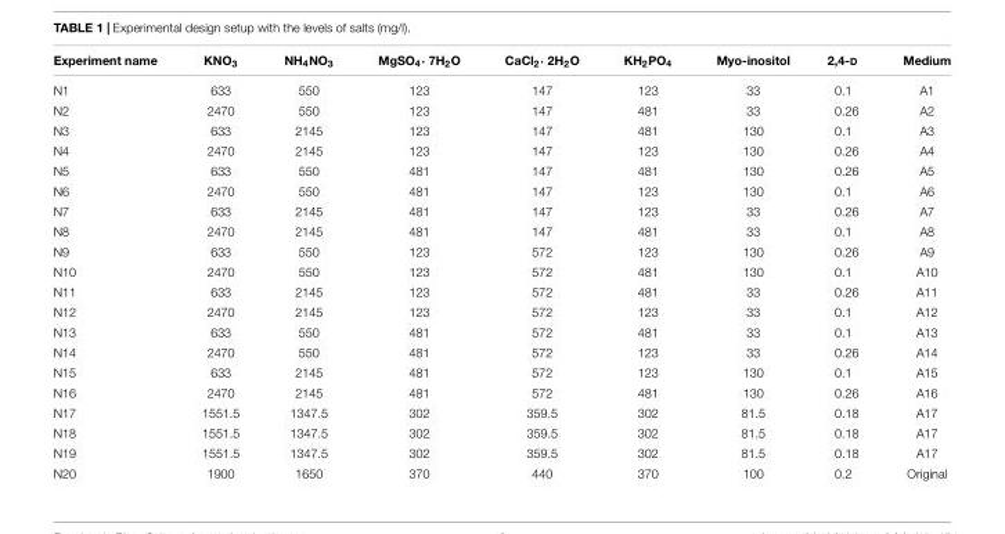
<table><thead><tr><td>Experiment name</td><td>KNO<sub>3</sub></td><td>NH<sub>4</sub>NO<sub>3</sub></td><td>MgSO4· 7H2O</td><td>CaCl2· 2H2O</td><td>KH<sub>2</sub>PO<sub>4</sub></td><td>Myo-inositol</td><td>2,4-D</td><td>Medium</td></tr></thead><tbody><tr><td>N1</td><td>633</td><td>550</td><td>123</td><td>147</td><td>123</td><td>33</td><td>0.1</td><td>A1</td></tr><tr><td>N2</td><td>2470</td><td>550</td><td>123</td><td>147</td><td>481</td><td>33</td><td>0.26</td><td>A2</td></tr><tr><td>N3</td><td>633</td><td>2145</td><td>123</td><td>147</td><td>481</td><td>130</td><td>0.1</td><td>A3</td></tr><tr><td>N4</td><td>2470</td><td>2145</td><td>123</td><td>147</td><td>123</td><td>130</td><td>0.26</td><td>A4</td></tr><tr><td>N5</td><td>633</td><td>550</td><td>481</td><td>147</td><td>481</td><td>130</td><td>0.26</td><td>A5</td></tr><tr><td>N6</td><td>2470</td><td>550</td><td>481</td><td>147</td><td>123</td><td>130</td><td>0.1</td><td>A6</td></tr><tr><td>N7</td><td>633</td><td>2145</td><td>481</td><td>147</td><td>123</td><td>33</td><td>0.26</td><td>A7</td></tr><tr><td>N8</td><td>2470</td><td>2145</td><td>481</td><td>147</td><td>481</td><td>33</td><td>0.1</td><td>A8</td></tr><tr><td>N9</td><td>633</td><td>550</td><td>123</td><td>572</td><td>123</td><td>130</td><td>0.26</td><td>A9</td></tr><tr><td>N10</td><td>2470</td><td>550</td><td>123</td><td>572</td><td>481</td><td>130</td><td>0.1</td><td>A10</td></tr><tr><td>N11</td><td>633</td><td>2145</td><td>123</td><td>572</td><td>481</td><td>33</td><td>0.26</td><td>A11</td></tr><tr><td>N12</td><td>2470</td><td>2145</td><td>123</td><td>572</td><td>123</td><td>33</td><td>0.1</td><td>A12</td></tr><tr><td>N13</td><td>633</td><td>550</td><td>481</td><td>572</td><td>481</td><td>33</td><td>0.1</td><td>A13</td></tr><tr><td>N14</td><td>2470</td><td>550</td><td>481</td><td>572</td><td>123</td><td>33</td><td>0.26</td><td>A14</td></tr><tr><td>N15</td><td>633</td><td>2145</td><td>481</td><td>572</td><td>123</td><td>130</td><td>0.1</td><td>A15</td></tr><tr><td>N16</td><td>2470</td><td>2145</td><td>481</td><td>572</td><td>481</td><td>130</td><td>0.26</td><td>A16</td></tr><tr><td>N17</td><td>1551.5</td><td>1347.5</td><td>302</td><td>359.5</td><td>302</td><td>81.5</td><td>0.18</td><td>A17</td></tr><tr><td>N18</td><td>1551.5</td><td>1347.5</td><td>302</td><td>359.5</td><td>302</td><td>81.5</td><td>0.18</td><td>A17</td></tr><tr><td>N19</td><td>1551.5</td><td>1347.5</td><td>302</td><td>359.5</td><td>302</td><td>81.5</td><td>0.18</td><td>A17</td></tr><tr><td>N20</td><td>1900</td><td>1650</td><td>370</td><td>440</td><td>370</td><td>100</td><td>0.2</td><td>Original</td></tr></tbody></table>